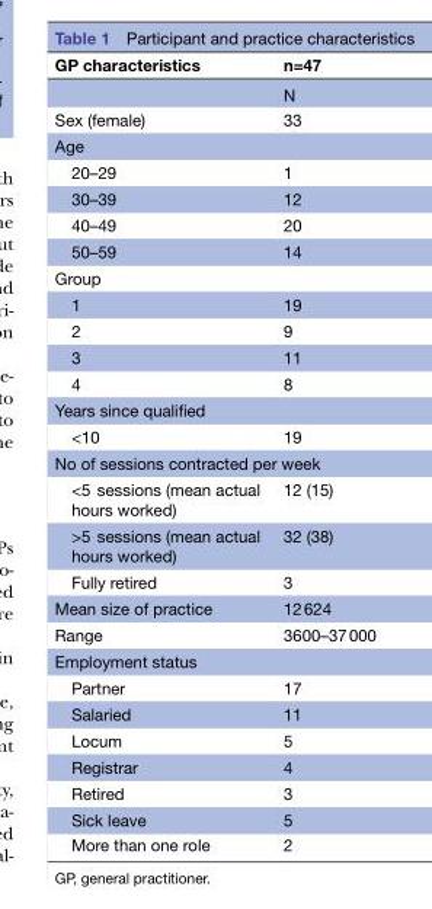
<table><thead><tr><td>GP characteristics</td><td>n=47</td></tr></thead><tbody><tr><td></td><td>N</td></tr><tr><td>Sex (female)</td><td>33</td></tr><tr><td colspan="2">Age</td></tr><tr><td>20–29</td><td>1</td></tr><tr><td>30–39</td><td>12</td></tr><tr><td>40–49</td><td>20</td></tr><tr><td>50–59</td><td>14</td></tr><tr><td colspan="2">Group</td></tr><tr><td>1</td><td>19</td></tr><tr><td>2</td><td>9</td></tr><tr><td>3</td><td>11</td></tr><tr><td>4</td><td>8</td></tr><tr><td colspan="2">Years since qualified</td></tr><tr><td>&lt;10</td><td>19</td></tr><tr><td colspan="2">No of sessions contracted per week</td></tr><tr><td>&lt;5 sessions (mean actual hours worked)</td><td>12 (15)</td></tr><tr><td>&gt;5 sessions (mean actual hours worked)</td><td>32 (38)</td></tr><tr><td>Fully retired</td><td>3</td></tr><tr><td>Mean size of practice</td><td>12 624</td></tr><tr><td>Range</td><td>3600–37 000</td></tr><tr><td colspan="2">Employment status</td></tr><tr><td>Partner</td><td>17</td></tr><tr><td>Salaried</td><td>11</td></tr><tr><td>Locum</td><td>5</td></tr><tr><td>Registrar</td><td>4</td></tr><tr><td>Retired</td><td>3</td></tr><tr><td>Sick leave</td><td>5</td></tr><tr><td>More than one role</td><td>2</td></tr></tbody></table>